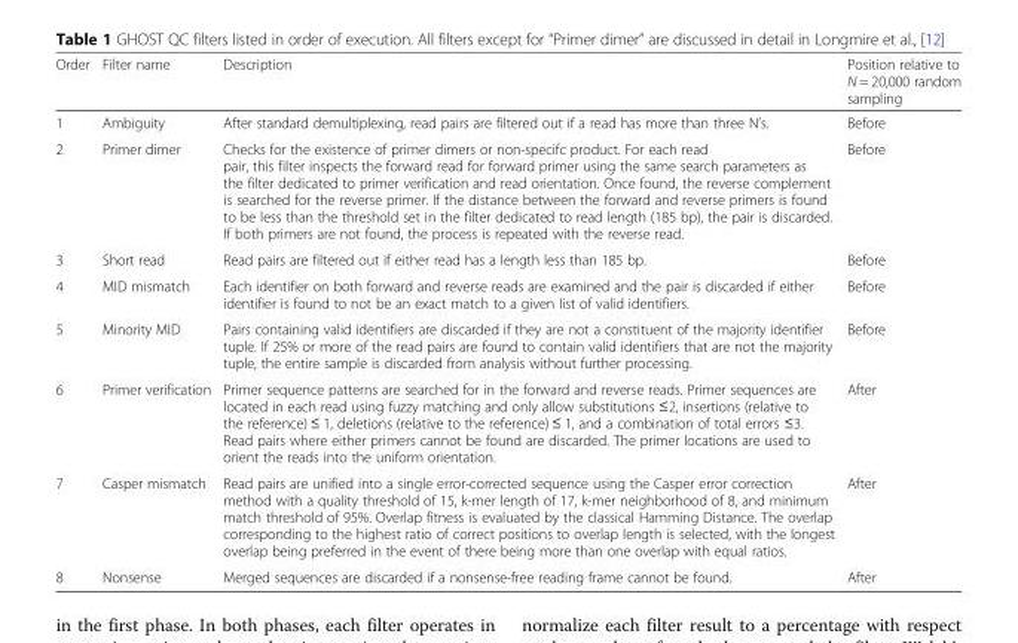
<table><thead><tr><td>Order</td><td>Filter name</td><td>Description</td><td>Position relative to N = 20,000 random sampling</td></tr></thead><tbody><tr><td>1</td><td>Ambiguity</td><td>After standard demultiplexing, read pairs are filtered out if a read has more than three N’s.</td><td>Before</td></tr><tr><td>2</td><td>Primer dimer</td><td>Checks for the existence of primer dimers or non-specifc product. For each read pair, this filter inspects the forward read for forward primer using the same search parameters as the filter dedicated to primer verification and read orientation. Once found, the reverse complement is searched for the reverse primer. If the distance between the forward and reverse primers is found to be less than the threshold set in the filter dedicated to read length (185 bp), the pair is discarded. If both primers are not found, the process is repeated with the reverse read.</td><td>Before</td></tr><tr><td>3</td><td>Short read</td><td>Read pairs are filtered out if either read has a length less than 185 bp.</td><td>Before</td></tr><tr><td>4</td><td>MID mismatch</td><td>Each identifier on both forward and reverse reads are examined and the pair is discarded if either identifier is found to not be an exact match to a given list of valid identifiers.</td><td>Before</td></tr><tr><td>5</td><td>Minority MID</td><td>Pairs containing valid identifiers are discarded if they are not a constituent of the majority identifier tuple. If 25% or more of the read pairs are found to contain valid identifiers that are not the majority tuple, the entire sample is discarded from analysis without further processing.</td><td>Before</td></tr><tr><td>6</td><td>Primer verification</td><td>Primer sequence patterns are searched for in the forward and reverse reads. Primer sequences are located in each read using fuzzy matching and only allow substitutions ≤2, insertions (relative to the reference) ≤ 1, deletions (relative to the reference) ≤ 1, and a combination of total errors ≤3. Read pairs where either primers cannot be found are discarded. The primer locations are used to orient the reads into the uniform orientation.</td><td>After</td></tr><tr><td>7</td><td>Casper mismatch</td><td>Read pairs are unified into a single error-corrected sequence using the Casper error correction method with a quality threshold of 15, k-mer length of 17, k-mer neighborhood of 8, and minimum match threshold of 95%. Overlap fitness is evaluated by the classical Hamming Distance. The overlap corresponding to the highest ratio of correct positions to overlap length is selected, with the longest overlap being preferred in the event of there being more than one overlap with equal ratios.</td><td>After</td></tr><tr><td>8</td><td>Nonsense</td><td>Merged sequences are discarded if a nonsense-free reading frame cannot be found.</td><td>After</td></tr></tbody></table>